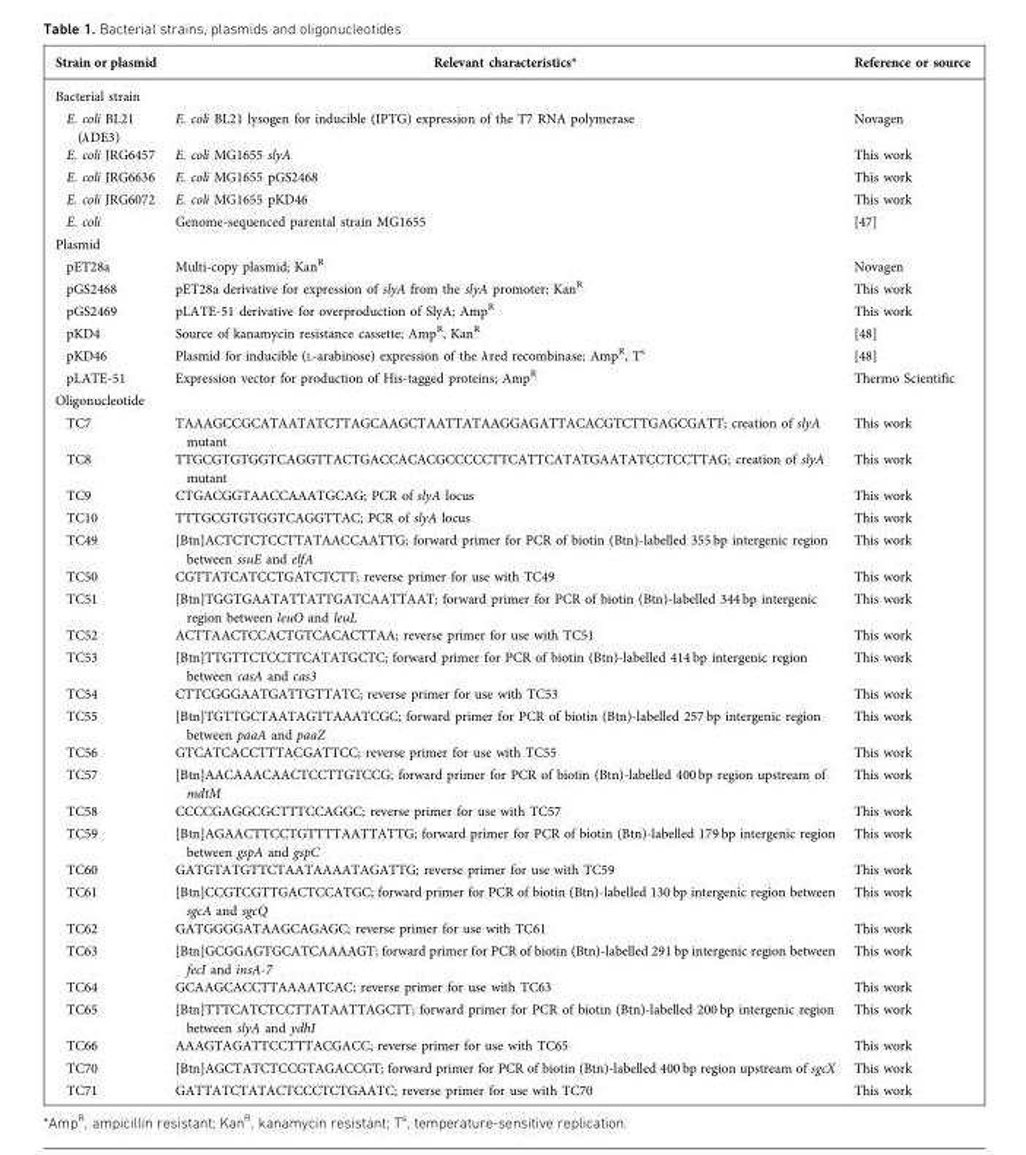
<table><thead><tr><td>Strain or plasmid</td><td>Relevant characteristics*</td><td>Reference or source</td></tr></thead><tbody><tr><td colspan="3">Bacterial strain</td></tr><tr><td>E. coli BL21 (λDE3)</td><td>E. coli BL21 lysogen for inducible (IPTG) expression of the T7 RNA polymerase</td><td>Novagen</td></tr><tr><td>E. coli JRG6457</td><td>E. coli MG1655 slyA</td><td>This work</td></tr><tr><td>E. coli JRG6636</td><td>E. coli MG1655 pGS2468</td><td>This work</td></tr><tr><td>E. coli JRG6072</td><td>E. coli MG1655 pKD46</td><td>This work</td></tr><tr><td>E. coli</td><td>Genome-sequenced parental strain MG1655</td><td>[47]</td></tr><tr><td colspan="3">Plasmid</td></tr><tr><td>pET28a</td><td>Multi-copy plasmid; Kan<sup>R</sup></td><td>Novagen</td></tr><tr><td>pGS2468</td><td>pET28a derivative for expression of slyA from the slyA promoter; Kan<sup>R</sup></td><td>This work</td></tr><tr><td>pGS2469</td><td>pLATE-51 derivative for overproduction of SlyA; Amp<sup>R</sup></td><td>This work</td></tr><tr><td>pKD4</td><td>Source of kanamycin resistance cassette; Amp<sup>R</sup>, Kan<sup>R</sup></td><td>[48]</td></tr><tr><td>pKD46</td><td>Plasmid for inducible (L-arabinose) expression of the λred recombinase; Amp<sup>R</sup>, T<sup>s</sup></td><td>[48]</td></tr><tr><td>pLATE-51</td><td>Expression vector for production of His-tagged proteins; Amp<sup>R</sup></td><td>Thermo Scientific</td></tr><tr><td colspan="3">Oligonucleotide</td></tr><tr><td>TC7</td><td>TAAAGCCGCATAATATCTTAGCAAGCTAATTATAAGGAGATTACACGTCTTGAGCGATT; creation of slyA mutant</td><td>This work</td></tr><tr><td>TC8</td><td>TTGCGTGTGGTCAGGTTACTGACCACACGCCCCCTTCATTCATATGAATATCCTCCTTAG; creation of slyA mutant</td><td>This work</td></tr><tr><td>TC9</td><td>CTGACGGTAACCAAATGCAG; PCR of slyA locus</td><td>This work</td></tr><tr><td>TC10</td><td>TTTGCGTGTGGTCAGGTTAC; PCR of slyA locus</td><td>This work</td></tr><tr><td>TC49</td><td>[Btn]ACTCTCTCCTTATAACCAATTG; forward primer for PCR of biotin (Btn)-labelled 355 bp intergenic region between ssuE and elfA</td><td>This work</td></tr><tr><td>TC50</td><td>CGTTATCATCCTGATCTCTT; reverse primer for use with TC49</td><td>This work</td></tr><tr><td>TC51</td><td>[Btn]TGGTGAATATTATTGATCAATTAAT; forward primer for PCR of biotin (Btn)-labelled 344 bp intergenic region between leuO and leuL</td><td>This work</td></tr><tr><td>TC52</td><td>ACTTAACTCCACTGTCACACTTAA; reverse primer for use with TC51</td><td>This work</td></tr><tr><td>TC53</td><td>[Btn]TTGTTCTCCTTCATATGCTC; forward primer for PCR of biotin (Btn)-labelled 414 bp intergenic region between casA and cas3</td><td>This work</td></tr><tr><td>TC54</td><td>CTTCGGGAATGATTGTTATC; reverse primer for use with TC53</td><td>This work</td></tr><tr><td>TC55</td><td>[Btn]TGTTGCTAATAGTTAAATCGC; forward primer for PCR of biotin (Btn)-labelled 257 bp intergenic region between paaA and paaZ</td><td>This work</td></tr><tr><td>TC56</td><td>GTCATCACCTTTACGATTCC; reverse primer for use with TC55</td><td>This work</td></tr><tr><td>TC57</td><td>[Btn]AACAAACAACTCCTTGTCCG; forward primer for PCR of biotin (Btn)-labelled 400 bp region upstream of mdtM</td><td>This work</td></tr><tr><td>TC58</td><td>CCCCGAGGCGCTTTCCAGGC; reverse primer for use with TC57</td><td>This work</td></tr><tr><td>TC59</td><td>[Btn]AGAACTTCCTGTTTTAATTATTG; forward primer for PCR of biotin (Btn)-labelled 179 bp intergenic region between gspA and gspC</td><td>This work</td></tr><tr><td>TC60</td><td>GATGTATGTTCTAATAAAATAGATTG; reverse primer for use with TC59</td><td>This work</td></tr><tr><td>TC61</td><td>[Btn]CCGTCGTTGACTCCATGC; forward primer for PCR of biotin (Btn)-labelled 130 bp intergenic region between sgcA and sgcQ</td><td>This work</td></tr><tr><td>TC62</td><td>GATGGGGATAAGCAGAGC; reverse primer for use with TC61</td><td>This work</td></tr><tr><td>TC63</td><td>[Btn]GCGGAGTGCATCAAAAGT; forward primer for PCR of biotin (Btn)-labelled 291 bp intergenic region between fecI and insA-7</td><td>This work</td></tr><tr><td>TC64</td><td>GCAAGCACCTTAAAATCAC; reverse primer for use with TC63</td><td>This work</td></tr><tr><td>TC65</td><td>[Btn]TTTCATCTCCTTATAATTAGCTT; forward primer for PCR of biotin (Btn)-labelled 200 bp intergenic region between slyA and ydhI</td><td>This work</td></tr><tr><td>TC66</td><td>AAAGTAGATTCCTTTACGACC; reverse primer for use with TC65</td><td>This work</td></tr><tr><td>TC70</td><td>[Btn]AGCTATCTCCGTAGACCGT; forward primer for PCR of biotin (Btn)-labelled 400 bp region upstream of sgcX</td><td>This work</td></tr><tr><td>TC71</td><td>GATTATCTATACTCCCTCTGAATC; reverse primer for use with TC70</td><td>This work</td></tr></tbody></table>